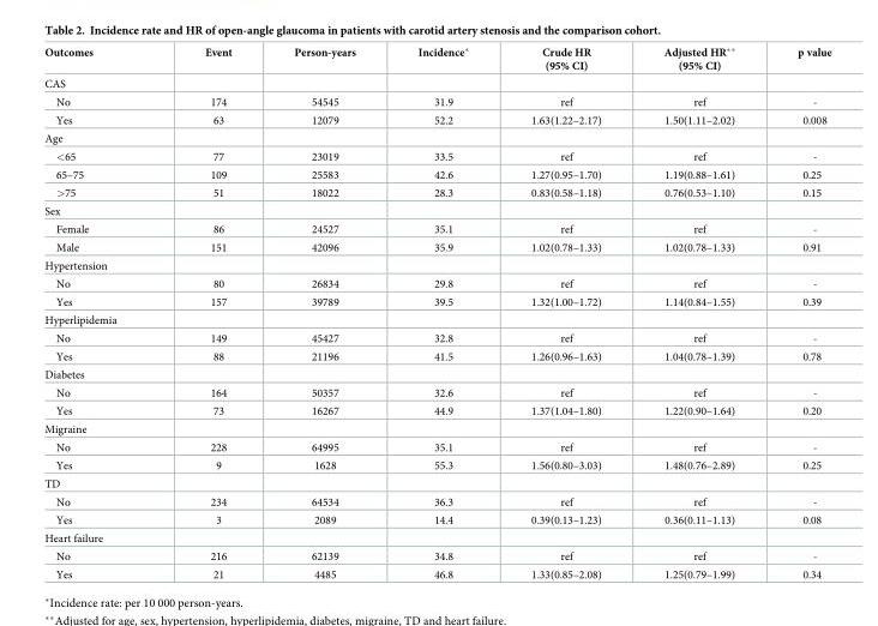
<table><thead><tr><td>Outcomes</td><td>Event</td><td>Person-years</td><td>Incidence*</td><td>Crude HR (95% CI)</td><td>Adjusted HR** (95% CI)</td><td>p value</td></tr></thead><tbody><tr><td colspan="7">CAS</td></tr><tr><td>No</td><td>174</td><td>54545</td><td>31.9</td><td>ref</td><td>ref</td><td>-</td></tr><tr><td>Yes</td><td>63</td><td>12079</td><td>52.2</td><td>1.63(1.22–2.17)</td><td>1.50(1.11–2.02)</td><td>0.008</td></tr><tr><td colspan="7">Age</td></tr><tr><td>&lt;65</td><td>77</td><td>23019</td><td>33.5</td><td>ref</td><td>ref</td><td>-</td></tr><tr><td>65–75</td><td>109</td><td>25583</td><td>42.6</td><td>1.27(0.95–1.70)</td><td>1.19(0.88–1.61)</td><td>0.25</td></tr><tr><td>&gt;75</td><td>51</td><td>18022</td><td>28.3</td><td>0.83(0.58–1.18)</td><td>0.76(0.53–1.10)</td><td>0.15</td></tr><tr><td colspan="7">Sex</td></tr><tr><td>Female</td><td>86</td><td>24527</td><td>35.1</td><td>ref</td><td>ref</td><td>-</td></tr><tr><td>Male</td><td>151</td><td>42096</td><td>35.9</td><td>1.02(0.78–1.33)</td><td>1.02(0.78–1.33)</td><td>0.91</td></tr><tr><td colspan="7">Hypertension</td></tr><tr><td>No</td><td>80</td><td>26834</td><td>29.8</td><td>ref</td><td>ref</td><td>-</td></tr><tr><td>Yes</td><td>157</td><td>39789</td><td>39.5</td><td>1.32(1.00–1.72)</td><td>1.14(0.84–1.55)</td><td>0.39</td></tr><tr><td colspan="7">Hyperlipidemia</td></tr><tr><td>No</td><td>149</td><td>45427</td><td>32.8</td><td>ref</td><td>ref</td><td>-</td></tr><tr><td>Yes</td><td>88</td><td>21196</td><td>41.5</td><td>1.26(0.96–1.63)</td><td>1.04(0.78–1.39)</td><td>0.78</td></tr><tr><td colspan="7">Diabetes</td></tr><tr><td>No</td><td>164</td><td>50357</td><td>32.6</td><td>ref</td><td>ref</td><td>-</td></tr><tr><td>Yes</td><td>73</td><td>16267</td><td>44.9</td><td>1.37(1.04–1.80)</td><td>1.22(0.90–1.64)</td><td>0.20</td></tr><tr><td colspan="7">Migraine</td></tr><tr><td>No</td><td>228</td><td>64995</td><td>35.1</td><td>ref</td><td>ref</td><td>-</td></tr><tr><td>Yes</td><td>9</td><td>1628</td><td>55.3</td><td>1.56(0.80–3.03)</td><td>1.48(0.76–2.89)</td><td>0.25</td></tr><tr><td colspan="7">TD</td></tr><tr><td>No</td><td>234</td><td>64534</td><td>36.3</td><td>ref</td><td>ref</td><td>-</td></tr><tr><td>Yes</td><td>3</td><td>2089</td><td>14.4</td><td>0.39(0.13–1.23)</td><td>0.36(0.11–1.13)</td><td>0.08</td></tr><tr><td colspan="7">Heart failure</td></tr><tr><td>No</td><td>216</td><td>62139</td><td>34.8</td><td>ref</td><td>ref</td><td>-</td></tr><tr><td>Yes</td><td>21</td><td>4485</td><td>46.8</td><td>1.33(0.85–2.08)</td><td>1.25(0.79–1.99)</td><td>0.34</td></tr></tbody></table>